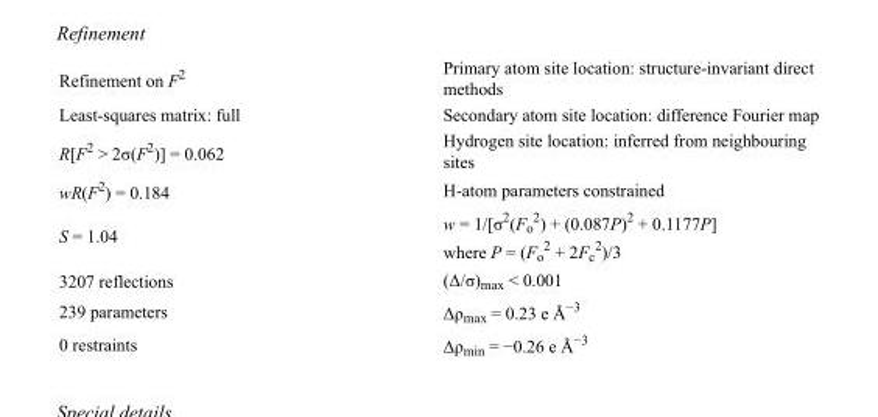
<table><tbody><tr><td>Refinement on F<sup>2</sup></td><td>Primary atom site location: structure-invariant direct methods</td></tr><tr><td>Least-squares matrix: full</td><td>Secondary atom site location: difference Fourier map</td></tr><tr><td>R[F<sup>2</sup> &gt; 2σ(F<sup>2</sup>)] = 0.062</td><td>Hydrogen site location: inferred from neighbouring sites</td></tr><tr><td>wR(F<sup>2</sup>) = 0.184</td><td>H-atom parameters constrained</td></tr><tr><td>S = 1.04</td><td>w = 1/[σ<sup>2</sup>(F<sub>o</sub> <sup>2</sup>) + (0.087P)<sup>2</sup> + 0.1177P] where P = (F<sub>o</sub> <sup>2</sup> + 2F<sub>c</sub> <sup>2</sup>)/3</td></tr><tr><td>3207 reflections</td><td>(Δ/σ)<sub>max</sub> &lt; 0.001</td></tr><tr><td>239 parameters</td><td>Δρ<sub>max</sub> = 0.23 e Å<sup>−3</sup></td></tr><tr><td>0 restraints</td><td>Δρ<sub>min</sub> = −0.26 e Å<sup>−3</sup></td></tr></tbody></table>